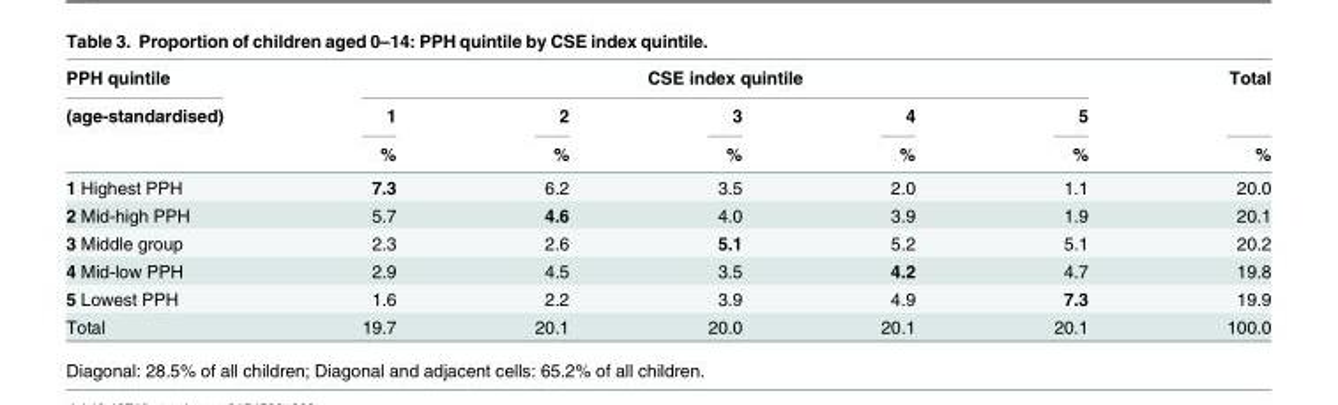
<table><thead><tr><td rowspan="3">PPH quintile (age-standardised)</td><td colspan="5">CSE index quintile</td><td rowspan="3">Total %</td></tr><tr><td rowspan="2">1 %</td><td rowspan="2">2 %</td><td rowspan="2">3 %</td><td rowspan="2">4 %</td><td rowspan="2">5 %</td></tr><tr></tr></thead><tbody><tr><td>1 Highest PPH</td><td>7.3</td><td>6.2</td><td>3.5</td><td>2.0</td><td>1.1</td><td>20.0</td></tr><tr><td>2 Mid-high PPH</td><td>5.7</td><td>4.6</td><td>4.0</td><td>3.9</td><td>1.9</td><td>20.1</td></tr><tr><td>3 Middle group</td><td>2.3</td><td>2.6</td><td>5.1</td><td>5.2</td><td>5.1</td><td>20.2</td></tr><tr><td>4 Mid-low PPH</td><td>2.9</td><td>4.5</td><td>3.5</td><td>4.2</td><td>4.7</td><td>19.8</td></tr><tr><td>5 Lowest PPH</td><td>1.6</td><td>2.2</td><td>3.9</td><td>4.9</td><td>7.3</td><td>19.9</td></tr><tr><td>Total</td><td>19.7</td><td>20.1</td><td>20.0</td><td>20.1</td><td>20.1</td><td>100.0</td></tr></tbody></table>